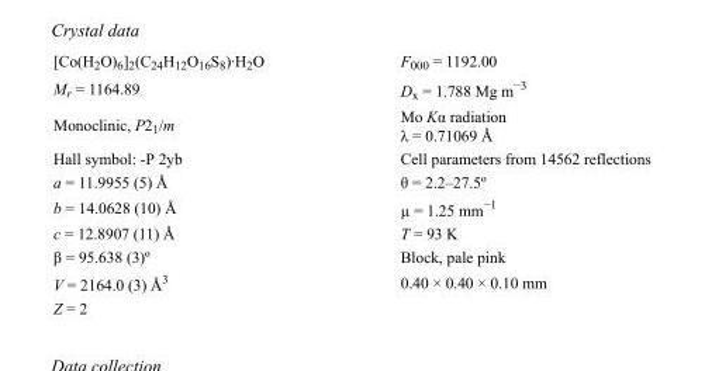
<table><tbody><tr><td>[Co(H<sub>2</sub>O)<sub>6</sub>]<sub>2</sub>(C<sub>24</sub>H<sub>12</sub>O<sub>16</sub>S<sub>8</sub>)·H<sub>2</sub>O</td><td>F<sub>000</sub> = 1192.00</td></tr><tr><td>M<sub>r</sub> = 1164.89</td><td>D<sub>x</sub> = 1.788 Mg m<sup>−3</sup></td></tr><tr><td>Monoclinic, P2<sub>1</sub>/m</td><td>Mo Kα radiation λ = 0.71069 Å</td></tr><tr><td>Hall symbol: -P 2yb</td><td>Cell parameters from 14562 reflections</td></tr><tr><td>a = 11.9955 (5) Å</td><td>θ = 2.2–27.5º</td></tr><tr><td>b = 14.0628 (10) Å</td><td>µ = 1.25 mm<sup>−1</sup></td></tr><tr><td>c = 12.8907 (11) Å</td><td>T = 93 K</td></tr><tr><td>β = 95.638 (3)º</td><td>Block, pale pink</td></tr><tr><td>V = 2164.0 (3) Å<sup>3</sup></td><td>0.40 × 0.40 × 0.10 mm</td></tr><tr><td>Z = 2</td><td></td></tr></tbody></table>